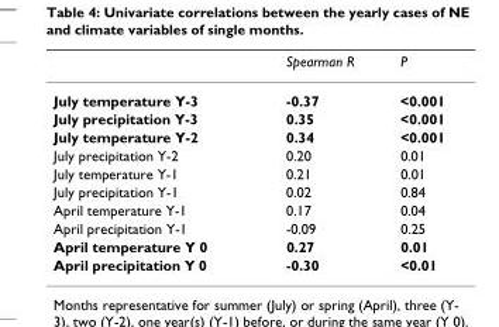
<table><thead><tr><td></td><td>Spearman R</td><td>P</td></tr></thead><tbody><tr><td>July temperature Y-3</td><td>-0.37</td><td>&lt;0.001</td></tr><tr><td>July precipitation Y-3</td><td>0.35</td><td>&lt;0.001</td></tr><tr><td>July temperature Y-2</td><td>0.34</td><td>&lt;0.001</td></tr><tr><td>July precipitation Y-2</td><td>0.20</td><td>0.01</td></tr><tr><td>July temperature Y-1</td><td>0.21</td><td>0.01</td></tr><tr><td>July precipitation Y-1</td><td>0.02</td><td>0.84</td></tr><tr><td>April temperature Y-1</td><td>0.17</td><td>0.04</td></tr><tr><td>April precipitation Y-1</td><td>-0.09</td><td>0.25</td></tr><tr><td>April temperature Y 0</td><td>0.27</td><td>0.01</td></tr><tr><td>April precipitation Y 0</td><td>-0.30</td><td>&lt;0.01</td></tr></tbody></table>